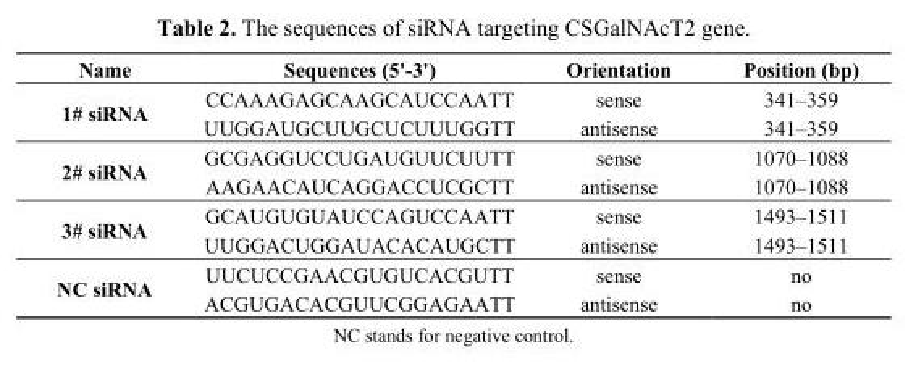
<table><thead><tr><td>Name</td><td>Sequences (5&#x27;-3&#x27;)</td><td>Orientation</td><td>Position (bp)</td></tr></thead><tbody><tr><td rowspan="2">1# siRNA</td><td>CCAAAGAGCAAGCAUCCAATT</td><td>sense</td><td>341–359</td></tr><tr><td>UUGGAUGCUUGCUCUUUGGTT</td><td>antisense</td><td>341–359</td></tr><tr><td rowspan="2">2# siRNA</td><td>GCGAGGUCCUGAUGUUCUUTT</td><td>sense</td><td>1070–1088</td></tr><tr><td>AAGAACAUCAGGACCUCGCTT</td><td>antisense</td><td>1070–1088</td></tr><tr><td rowspan="2">3# siRNA</td><td>GCAUGUGUAUCCAGUCCAATT</td><td>sense</td><td>1493–1511</td></tr><tr><td>UUGGACUGGAUACACAUGCTT</td><td>antisense</td><td>1493–1511</td></tr><tr><td rowspan="2">NC siRNA</td><td>UUCUCCGAACGUGUCACGUTT</td><td>sense</td><td>no</td></tr><tr><td>ACGUGACACGUUCGGAGAATT</td><td>antisense</td><td>no</td></tr></tbody></table>